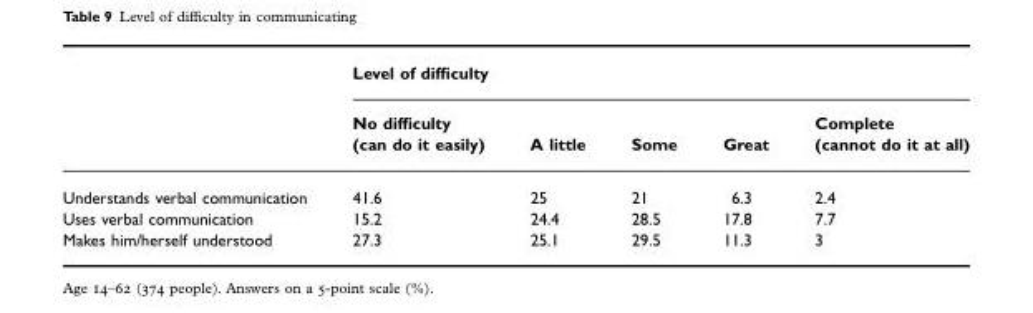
<table><thead><tr><td rowspan="2"></td><td colspan="5">Level of difficulty</td></tr><tr><td>No difficulty (can do it easily)</td><td>A little</td><td>Some</td><td>Great</td><td>Complete (cannot do it at all)</td></tr></thead><tbody><tr><td>Understands verbal communication</td><td>41.6</td><td>25</td><td>21</td><td>6.3</td><td>2.4</td></tr><tr><td>Uses verbal communication</td><td>15.2</td><td>24.4</td><td>28.5</td><td>17.8</td><td>7.7</td></tr><tr><td>Makes him/herself understood</td><td>27.3</td><td>25.1</td><td>29.5</td><td>11.3</td><td>3</td></tr></tbody></table>